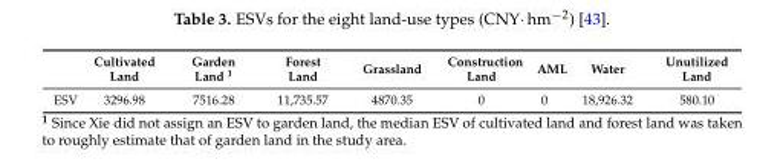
<table><thead><tr><td></td><td>Cultivated Land</td><td>Garden Land <sup>1</sup></td><td>Forest Land</td><td>Grassland</td><td>Construction Land</td><td>AML</td><td>Water</td><td>Unutilized Land</td></tr></thead><tbody><tr><td>ESV</td><td>3296.98</td><td>7516.28</td><td>11,735.57</td><td>4870.35</td><td>0</td><td>0</td><td>18,926.32</td><td>580.10</td></tr></tbody></table>